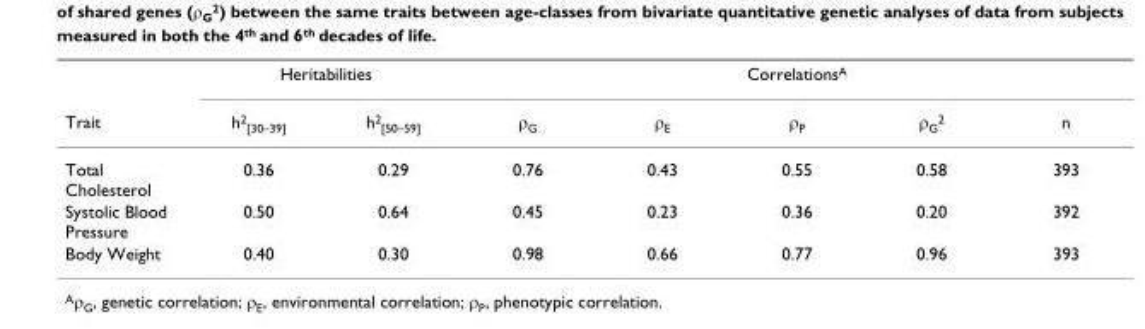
<table><thead><tr><td rowspan="2">Trait</td><td colspan="2">Heritabilities</td><td colspan="5">CorrelationsA</td></tr><tr><td>h2[30–39]</td><td>h2[50–59]</td><td>ρG</td><td>ρE</td><td>ρP</td><td>ρG2</td><td>n</td></tr></thead><tbody><tr><td>Total Cholesterol</td><td>0.36</td><td>0.29</td><td>0.76</td><td>0.43</td><td>0.55</td><td>0.58</td><td>393</td></tr><tr><td>Systolic Blood Pressure</td><td>0.50</td><td>0.64</td><td>0.45</td><td>0.23</td><td>0.36</td><td>0.20</td><td>392</td></tr><tr><td>Body Weight</td><td>0.40</td><td>0.30</td><td>0.98</td><td>0.66</td><td>0.77</td><td>0.96</td><td>393</td></tr></tbody></table>